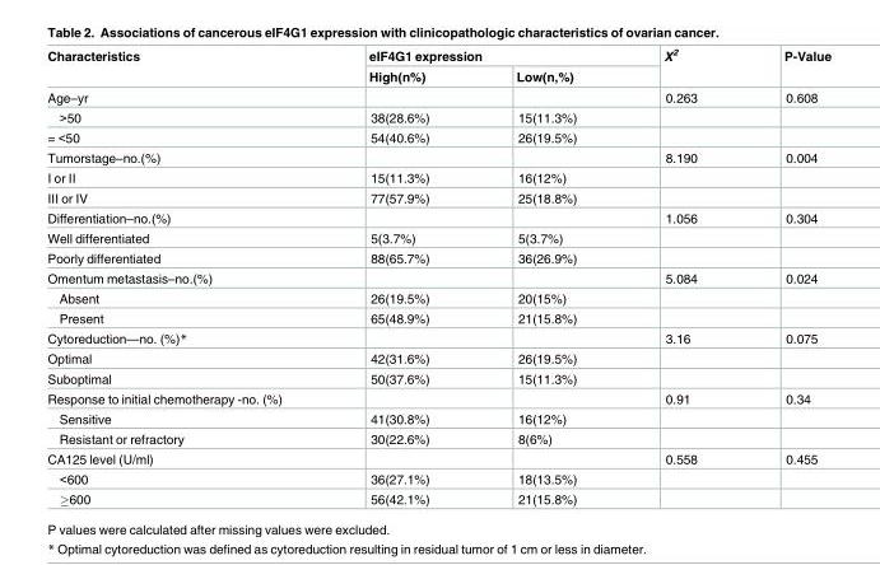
<table><thead><tr><td rowspan="2">Characteristics</td><td colspan="2">eIF4G1 expression</td><td rowspan="2">X<sup>2</sup></td><td rowspan="2">P-Value</td></tr><tr><td>High(n%)</td><td>Low(n,%)</td></tr></thead><tbody><tr><td>Age–yr</td><td></td><td></td><td>0.263</td><td>0.608</td></tr><tr><td>&gt;50</td><td>38(28.6%)</td><td>15(11.3%)</td><td></td><td></td></tr><tr><td>= &lt;50</td><td>54(40.6%)</td><td>26(19.5%)</td><td></td><td></td></tr><tr><td>Tumorstage–no.(%)</td><td></td><td></td><td>8.190</td><td>0.004</td></tr><tr><td>I or II</td><td>15(11.3%)</td><td>16(12%)</td><td></td><td></td></tr><tr><td>III or IV</td><td>77(57.9%)</td><td>25(18.8%)</td><td></td><td></td></tr><tr><td>Differentiation–no.(%)</td><td></td><td></td><td>1.056</td><td>0.304</td></tr><tr><td>Well differentiated</td><td>5(3.7%)</td><td>5(3.7%)</td><td></td><td></td></tr><tr><td>Poorly differentiated</td><td>88(65.7%)</td><td>36(26.9%)</td><td></td><td></td></tr><tr><td>Omentum metastasis–no.(%)</td><td></td><td></td><td>5.084</td><td>0.024</td></tr><tr><td>Absent</td><td>26(19.5%)</td><td>20(15%)</td><td></td><td></td></tr><tr><td>Present</td><td>65(48.9%)</td><td>21(15.8%)</td><td></td><td></td></tr><tr><td>Cytoreduction—no. (%)*</td><td></td><td></td><td>3.16</td><td>0.075</td></tr><tr><td>Optimal</td><td>42(31.6%)</td><td>26(19.5%)</td><td></td><td></td></tr><tr><td>Suboptimal</td><td>50(37.6%)</td><td>15(11.3%)</td><td></td><td></td></tr><tr><td>Response to initial chemotherapy -no. (%)</td><td></td><td></td><td>0.91</td><td>0.34</td></tr><tr><td>Sensitive</td><td>41(30.8%)</td><td>16(12%)</td><td></td><td></td></tr><tr><td>Resistant or refractory</td><td>30(22.6%)</td><td>8(6%)</td><td></td><td></td></tr><tr><td>CA125 level (U/ml)</td><td></td><td></td><td>0.558</td><td>0.455</td></tr><tr><td>&lt;600</td><td>36(27.1%)</td><td>18(13.5%)</td><td></td><td></td></tr><tr><td>≥600</td><td>56(42.1%)</td><td>21(15.8%)</td><td></td><td></td></tr></tbody></table>